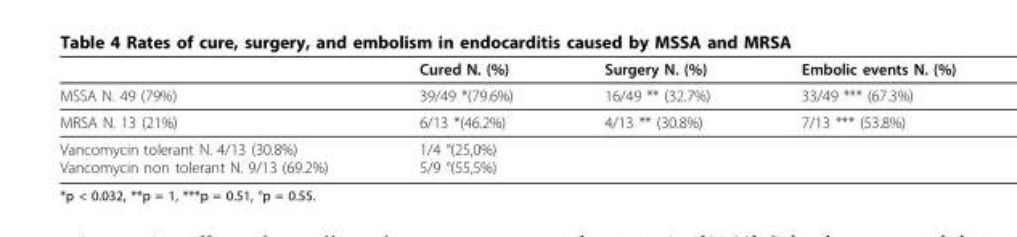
<table><thead><tr><td></td><td>Cured N. (%)</td><td>Surgery N. (%)</td><td>Embolic events N. (%)</td></tr></thead><tbody><tr><td>MSSA N. 49 (79%)</td><td>39/49 *(79.6%)</td><td>16/49 ** (32.7%)</td><td>33/49 *** (67.3%)</td></tr><tr><td>MRSA N. 13 (21%)</td><td>6/13 *(46.2%)</td><td>4/13 ** (30.8%)</td><td>7/13 *** (53.8%)</td></tr><tr><td>Vancomycin tolerant N. 4/13 (30.8%) Vancomycin non tolerant N. 9/13 (69.2%)</td><td>1/4 °(25,0%) 5/9 °(55,5%)</td><td></td><td></td></tr></tbody></table>